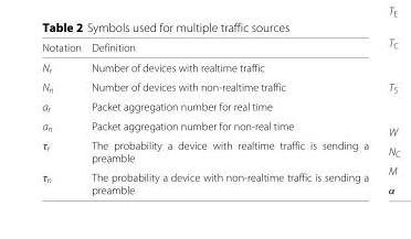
<table><thead><tr><td>Notation</td><td>Definition</td></tr></thead><tbody><tr><td>N<sub>r</sub></td><td>Number of devices with realtime traffic</td></tr><tr><td>N<sub>n</sub></td><td>Number of devices with non-realtime traffic</td></tr><tr><td>a<sub>r</sub></td><td>Packet aggregation number for real time</td></tr><tr><td>a<sub>n</sub></td><td>Packet aggregation number for non-real time</td></tr><tr><td>τ<sub>r</sub></td><td>The probability a device with realtime traffic is sending a preamble</td></tr><tr><td>τ<sub>n</sub></td><td>The probability a device with non-realtime traffic is sending a preamble</td></tr></tbody></table>